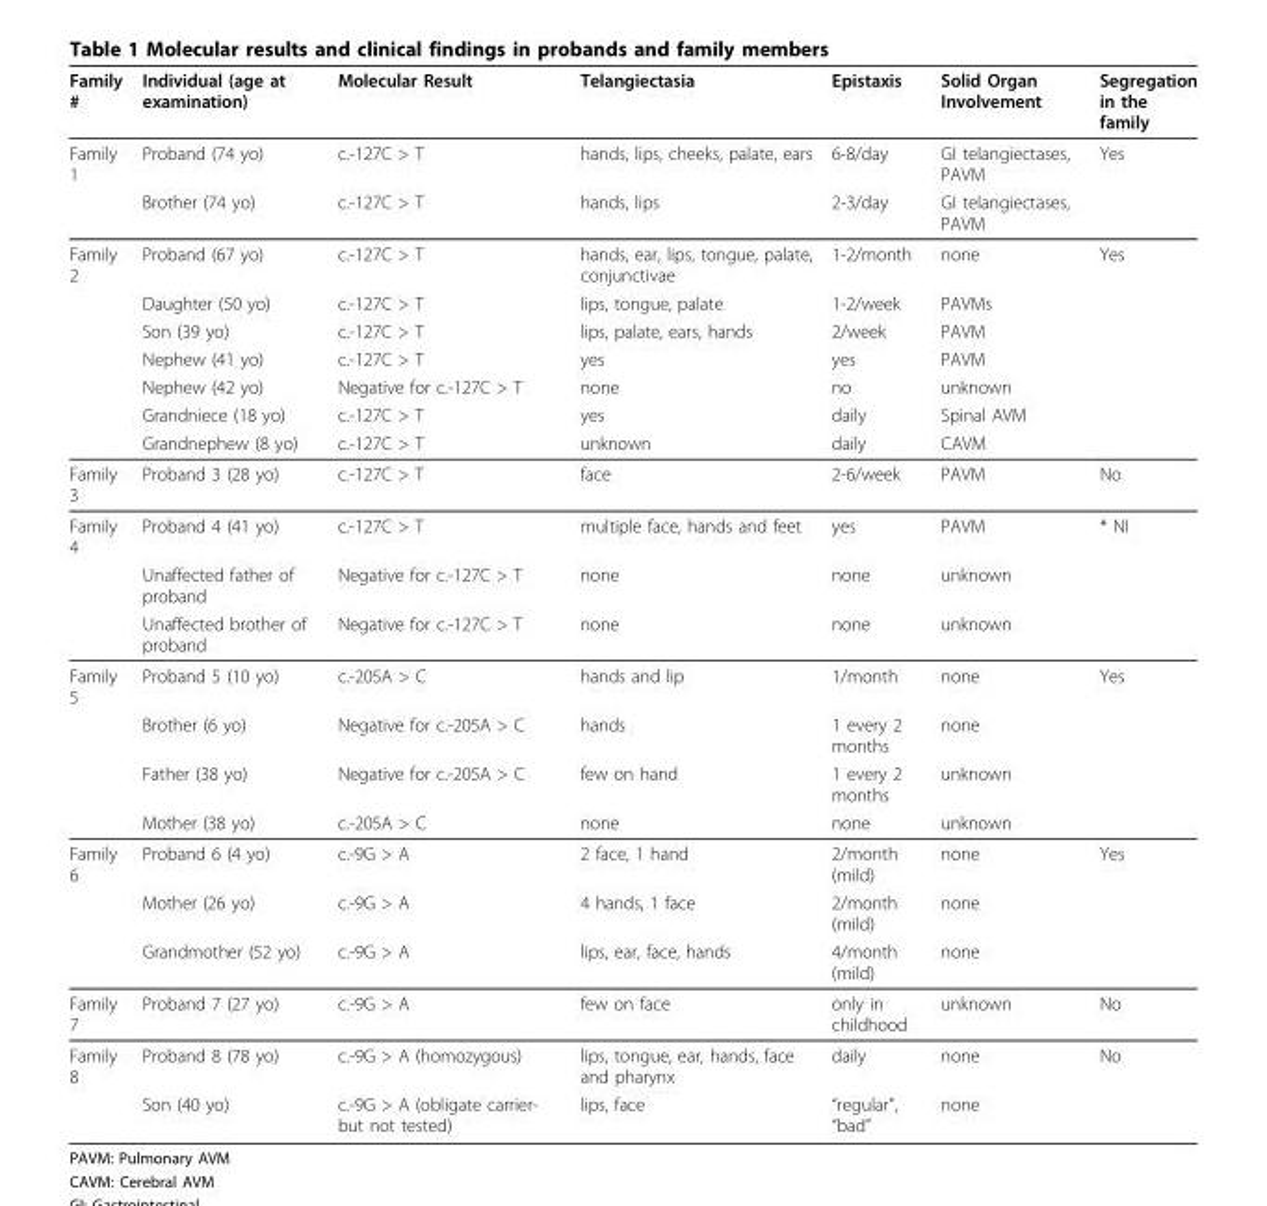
<table><thead><tr><td>Family #</td><td>Individual (age at examination)</td><td>Molecular Result</td><td>Telangiectasia</td><td>Epistaxis</td><td>Solid Organ Involvement</td><td>Segregation in the family</td></tr></thead><tbody><tr><td rowspan="2">Family 1</td><td>Proband (74 yo)</td><td>c.-127C &gt; T</td><td>hands, lips, cheeks, palate, ears</td><td>6-8/day</td><td>GI telangiectases, PAVM</td><td>Yes</td></tr><tr><td>Brother (74 yo)</td><td>c.-127C &gt; T</td><td>hands, lips</td><td>2-3/day</td><td>GI telangiectases, PAVM</td><td></td></tr><tr><td rowspan="7">Family 2</td><td>Proband (67 yo)</td><td>c.-127C &gt; T</td><td>hands, ear, lips, tongue, palate, conjunctivae</td><td>1-2/month</td><td>none</td><td>Yes</td></tr><tr><td>Daughter (50 yo)</td><td>c.-127C &gt; T</td><td>lips, tongue, palate</td><td>1-2/week</td><td>PAVMs</td><td></td></tr><tr><td>Son (39 yo)</td><td>c.-127C &gt; T</td><td>lips, palate, ears, hands</td><td>2/week</td><td>PAVM</td><td></td></tr><tr><td>Nephew (41 yo)</td><td>c.-127C &gt; T</td><td>yes</td><td>yes</td><td>PAVM</td><td></td></tr><tr><td>Nephew (42 yo)</td><td>Negative for c.-127C &gt; T</td><td>none</td><td>no</td><td>unknown</td><td></td></tr><tr><td>Grandniece (18 yo)</td><td>c.-127C &gt; T</td><td>yes</td><td>daily</td><td>Spinal AVM</td><td></td></tr><tr><td>Grandnephew (8 yo)</td><td>c.-127C &gt; T</td><td>unknown</td><td>daily</td><td>CAVM</td><td></td></tr><tr><td>Family 3</td><td>Proband 3 (28 yo)</td><td>c.-127C &gt; T</td><td>face</td><td>2-6/week</td><td>PAVM</td><td>No</td></tr><tr><td rowspan="3">Family 4</td><td>Proband 4 (41 yo)</td><td>c.-127C &gt; T</td><td>multiple face, hands and feet</td><td>yes</td><td>PAVM</td><td>* NI</td></tr><tr><td>Unaffected father of proband</td><td>Negative for c.-127C &gt; T</td><td>none</td><td>none</td><td>unknown</td><td></td></tr><tr><td>Unaffected brother of proband</td><td>Negative for c.-127C &gt; T</td><td>none</td><td>none</td><td>unknown</td><td></td></tr><tr><td rowspan="4">Family 5</td><td>Proband 5 (10 yo)</td><td>c.-205A &gt; C</td><td>hands and lip</td><td>1/month</td><td>none</td><td>Yes</td></tr><tr><td>Brother (6 yo)</td><td>Negative for c.-205A &gt; C</td><td>hands</td><td>1 every 2 months</td><td>none</td><td></td></tr><tr><td>Father (38 yo)</td><td>Negative for c.-205A &gt; C</td><td>few on hand</td><td>1 every 2 months</td><td>unknown</td><td></td></tr><tr><td>Mother (38 yo)</td><td>c.-205A &gt; C</td><td>none</td><td>none</td><td>unknown</td><td></td></tr><tr><td rowspan="3">Family 6</td><td>Proband 6 (4 yo)</td><td>c.-9G &gt; A</td><td>2 face, 1 hand</td><td>2/month (mild)</td><td>none</td><td>Yes</td></tr><tr><td>Mother (26 yo)</td><td>c.-9G &gt; A</td><td>4 hands, 1 face</td><td>2/month (mild)</td><td>none</td><td></td></tr><tr><td>Grandmother (52 yo)</td><td>c.-9G &gt; A</td><td>lips, ear, face, hands</td><td>4/month (mild)</td><td>none</td><td></td></tr><tr><td>Family 7</td><td>Proband 7 (27 yo)</td><td>c.-9G &gt; A</td><td>few on face</td><td>only in childhood</td><td>unknown</td><td>No</td></tr><tr><td rowspan="2">Family 8</td><td>Proband 8 (78 yo)</td><td>c.-9G &gt; A (homozygous)</td><td>lips, tongue, ear, hands, face and pharynx</td><td>daily</td><td>none</td><td>No</td></tr><tr><td>Son (40 yo)</td><td>c.-9G &gt; A (obligate carrier- but not tested)</td><td>lips, face</td><td>“regular”, “bad”</td><td>none</td><td></td></tr></tbody></table>